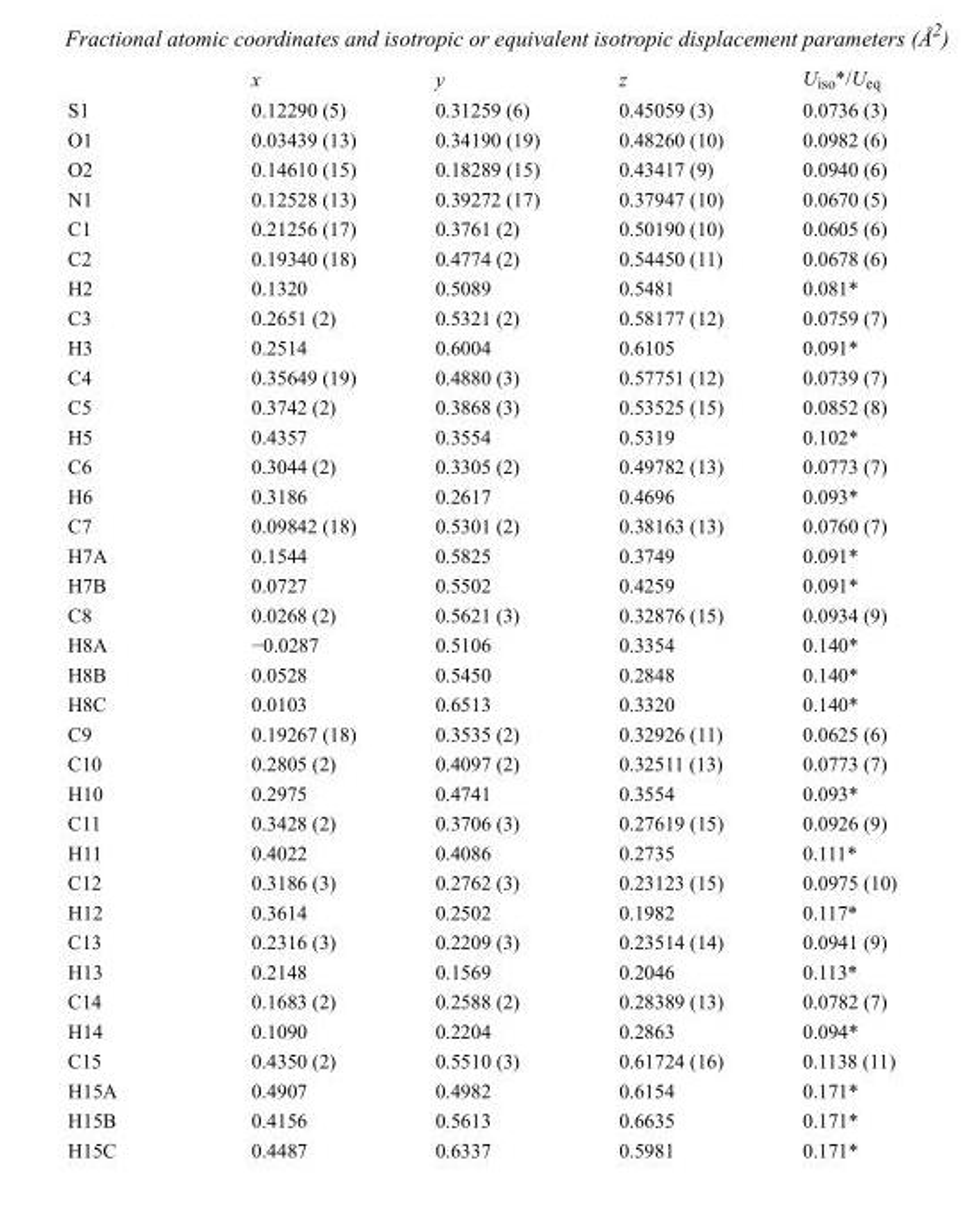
<table><thead><tr><td></td><td>x</td><td>y</td><td>z</td><td>U<sub>iso</sub>*/U<sub>eq</sub></td></tr></thead><tbody><tr><td>S1</td><td>0.12290 (5)</td><td>0.31259 (6)</td><td>0.45059 (3)</td><td>0.0736 (3)</td></tr><tr><td>O1</td><td>0.03439 (13)</td><td>0.34190 (19)</td><td>0.48260 (10)</td><td>0.0982 (6)</td></tr><tr><td>O2</td><td>0.14610 (15)</td><td>0.18289 (15)</td><td>0.43417 (9)</td><td>0.0940 (6)</td></tr><tr><td>N1</td><td>0.12528 (13)</td><td>0.39272 (17)</td><td>0.37947 (10)</td><td>0.0670 (5)</td></tr><tr><td>C1</td><td>0.21256 (17)</td><td>0.3761 (2)</td><td>0.50190 (10)</td><td>0.0605 (6)</td></tr><tr><td>C2</td><td>0.19340 (18)</td><td>0.4774 (2)</td><td>0.54450 (11)</td><td>0.0678 (6)</td></tr><tr><td>H2</td><td>0.1320</td><td>0.5089</td><td>0.5481</td><td>0.081*</td></tr><tr><td>C3</td><td>0.2651 (2)</td><td>0.5321 (2)</td><td>0.58177 (12)</td><td>0.0759 (7)</td></tr><tr><td>H3</td><td>0.2514</td><td>0.6004</td><td>0.6105</td><td>0.091*</td></tr><tr><td>C4</td><td>0.35649 (19)</td><td>0.4880 (3)</td><td>0.57751 (12)</td><td>0.0739 (7)</td></tr><tr><td>C5</td><td>0.3742 (2)</td><td>0.3868 (3)</td><td>0.53525 (15)</td><td>0.0852 (8)</td></tr><tr><td>H5</td><td>0.4357</td><td>0.3554</td><td>0.5319</td><td>0.102*</td></tr><tr><td>C6</td><td>0.3044 (2)</td><td>0.3305 (2)</td><td>0.49782 (13)</td><td>0.0773 (7)</td></tr><tr><td>H6</td><td>0.3186</td><td>0.2617</td><td>0.4696</td><td>0.093*</td></tr><tr><td>C7</td><td>0.09842 (18)</td><td>0.5301 (2)</td><td>0.38163 (13)</td><td>0.0760 (7)</td></tr><tr><td>H7A</td><td>0.1544</td><td>0.5825</td><td>0.3749</td><td>0.091*</td></tr><tr><td>H7B</td><td>0.0727</td><td>0.5502</td><td>0.4259</td><td>0.091*</td></tr><tr><td>C8</td><td>0.0268 (2)</td><td>0.5621 (3)</td><td>0.32876 (15)</td><td>0.0934 (9)</td></tr><tr><td>H8A</td><td>−0.0287</td><td>0.5106</td><td>0.3354</td><td>0.140*</td></tr><tr><td>H8B</td><td>0.0528</td><td>0.5450</td><td>0.2848</td><td>0.140*</td></tr><tr><td>H8C</td><td>0.0103</td><td>0.6513</td><td>0.3320</td><td>0.140*</td></tr><tr><td>C9</td><td>0.19267 (18)</td><td>0.3535 (2)</td><td>0.32926 (11)</td><td>0.0625 (6)</td></tr><tr><td>C10</td><td>0.2805 (2)</td><td>0.4097 (2)</td><td>0.32511 (13)</td><td>0.0773 (7)</td></tr><tr><td>H10</td><td>0.2975</td><td>0.4741</td><td>0.3554</td><td>0.093*</td></tr><tr><td>C11</td><td>0.3428 (2)</td><td>0.3706 (3)</td><td>0.27619 (15)</td><td>0.0926 (9)</td></tr><tr><td>H11</td><td>0.4022</td><td>0.4086</td><td>0.2735</td><td>0.111*</td></tr><tr><td>C12</td><td>0.3186 (3)</td><td>0.2762 (3)</td><td>0.23123 (15)</td><td>0.0975 (10)</td></tr><tr><td>H12</td><td>0.3614</td><td>0.2502</td><td>0.1982</td><td>0.117*</td></tr><tr><td>C13</td><td>0.2316 (3)</td><td>0.2209 (3)</td><td>0.23514 (14)</td><td>0.0941 (9)</td></tr><tr><td>H13</td><td>0.2148</td><td>0.1569</td><td>0.2046</td><td>0.113*</td></tr><tr><td>C14</td><td>0.1683 (2)</td><td>0.2588 (2)</td><td>0.28389 (13)</td><td>0.0782 (7)</td></tr><tr><td>H14</td><td>0.1090</td><td>0.2204</td><td>0.2863</td><td>0.094*</td></tr><tr><td>C15</td><td>0.4350 (2)</td><td>0.5510 (3)</td><td>0.61724 (16)</td><td>0.1138 (11)</td></tr><tr><td>H15A</td><td>0.4907</td><td>0.4982</td><td>0.6154</td><td>0.171*</td></tr><tr><td>H15B</td><td>0.4156</td><td>0.5613</td><td>0.6635</td><td>0.171*</td></tr><tr><td>H15C</td><td>0.4487</td><td>0.6337</td><td>0.5981</td><td>0.171*</td></tr></tbody></table>